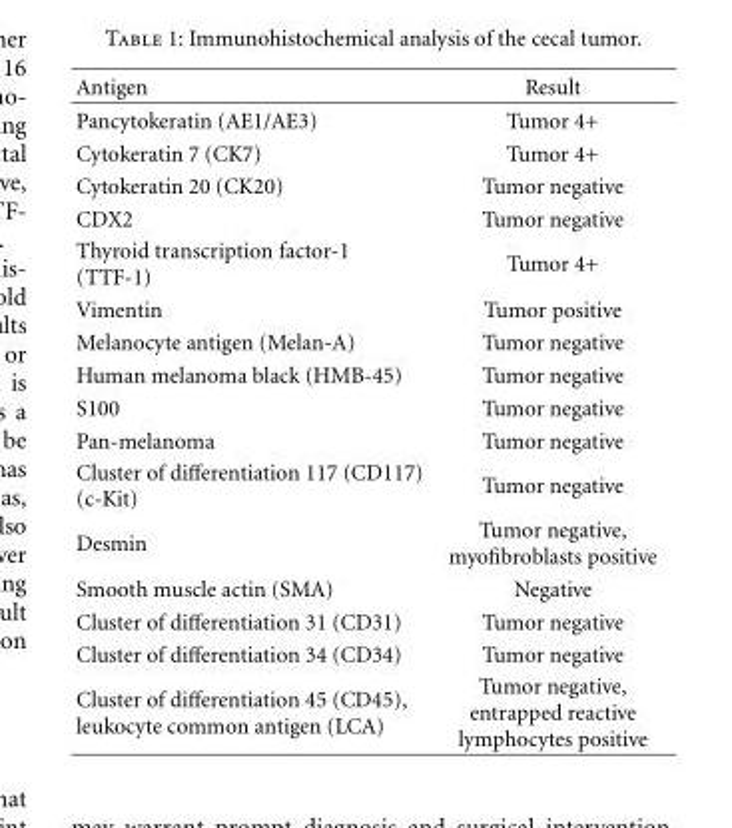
<table><thead><tr><td>Antigen</td><td>Result</td></tr></thead><tbody><tr><td>Pancytokeratin (AE1/AE3)</td><td>Tumor 4+</td></tr><tr><td>Cytokeratin 7 (CK7)</td><td>Tumor 4+</td></tr><tr><td>Cytokeratin 20 (CK20)</td><td>Tumor negative</td></tr><tr><td>CDX2</td><td>Tumor negative</td></tr><tr><td>Thyroid transcription factor-1 (TTF-1)</td><td>Tumor 4+</td></tr><tr><td>Vimentin</td><td>Tumor positive</td></tr><tr><td>Melanocyte antigen (Melan-A)</td><td>Tumor negative</td></tr><tr><td>Human melanoma black (HMB-45)</td><td>Tumor negative</td></tr><tr><td>S100</td><td>Tumor negative</td></tr><tr><td>Pan-melanoma</td><td>Tumor negative</td></tr><tr><td>Cluster of differentiation 117 (CD117) (c-Kit)</td><td>Tumor negative</td></tr><tr><td>Desmin</td><td>Tumor negative, myofibroblasts positive</td></tr><tr><td>Smooth muscle actin (SMA)</td><td>Negative</td></tr><tr><td>Cluster of differentiation 31 (CD31)</td><td>Tumor negative</td></tr><tr><td>Cluster of differentiation 34 (CD34)</td><td>Tumor negative</td></tr><tr><td>Cluster of differentiation 45 (CD45), leukocyte common antigen (LCA)</td><td>Tumor negative, entrapped reactive lymphocytes positive</td></tr></tbody></table>